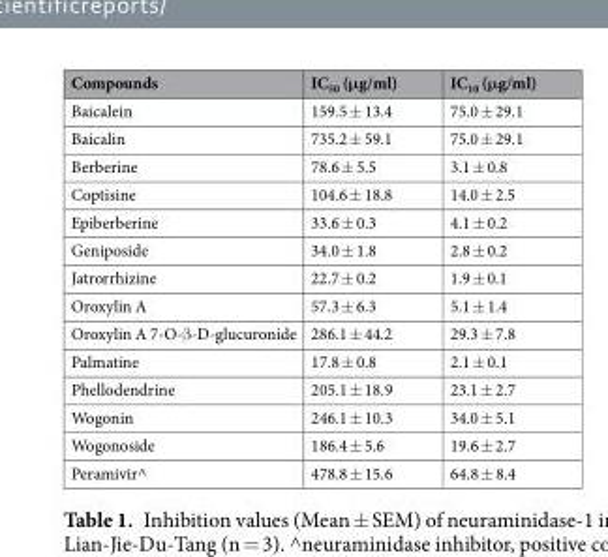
<table><thead><tr><td>Compounds</td><td>IC<sub>50</sub> (μg/ml)</td><td>IC<sub>10</sub> (μg/ml)</td></tr></thead><tbody><tr><td>Baicalein</td><td>159.5 ± 13.4</td><td>75.0 ± 29.1</td></tr><tr><td>Baicalin</td><td>735.2 ± 59.1</td><td>75.0 ± 29.1</td></tr><tr><td>Berberine</td><td>78.6 ± 5.5</td><td>3.1 ± 0.8</td></tr><tr><td>Coptisine</td><td>104.6 ± 18.8</td><td>14.0 ± 2.5</td></tr><tr><td>Epiberberine</td><td>33.6 ± 0.3</td><td>4.1 ± 0.2</td></tr><tr><td>Geniposide</td><td>34.0 ± 1.8</td><td>2.8 ± 0.2</td></tr><tr><td>Jatrorrhizine</td><td>22.7 ± 0.2</td><td>1.9 ± 0.1</td></tr><tr><td>Oroxylin A</td><td>57.3 ± 6.3</td><td>5.1 ± 1.4</td></tr><tr><td>Oroxylin A 7-O-β-D-glucuronide</td><td>286.1 ± 44.2</td><td>29.3 ± 7.8</td></tr><tr><td>Palmatine</td><td>17.8 ± 0.8</td><td>2.1 ± 0.1</td></tr><tr><td>Phellodendrine</td><td>205.1 ± 18.9</td><td>23.1 ± 2.7</td></tr><tr><td>Wogonin</td><td>246.1 ± 10.3</td><td>34.0 ± 5.1</td></tr><tr><td>Wogonoside</td><td>186.4 ± 5.6</td><td>19.6 ± 2.7</td></tr><tr><td>Peramivir^</td><td>478.8 ± 15.6</td><td>64.8 ± 8.4</td></tr></tbody></table>